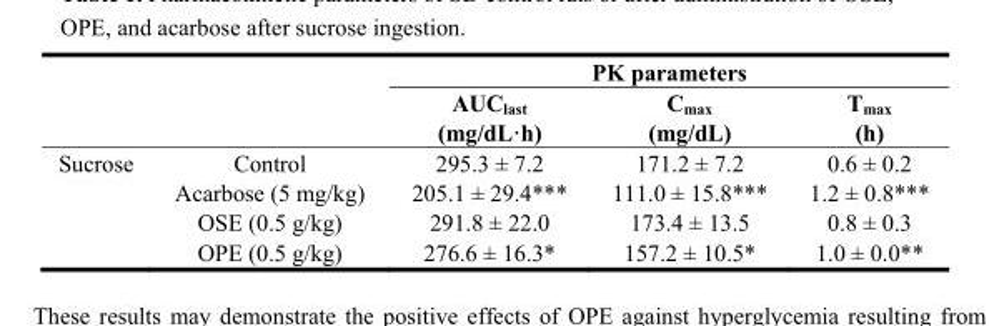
<table><thead><tr><td rowspan="2"></td><td rowspan="2"></td><td colspan="3">PK parameters</td></tr><tr><td>AUC<sub>last</sub> (mg/dL·h)</td><td>C<sub>max</sub> (mg/dL)</td><td>T<sub>max</sub> (h)</td></tr></thead><tbody><tr><td rowspan="4">Sucrose</td><td>Control</td><td>295.3 ± 7.2</td><td>171.2 ± 7.2</td><td>0.6 ± 0.2</td></tr><tr><td>Acarbose (5 mg/kg)</td><td>205.1 ± 29.4***</td><td>111.0 ± 15.8***</td><td>1.2 ± 0.8***</td></tr><tr><td>OSE (0.5 g/kg)</td><td>291.8 ± 22.0</td><td>173.4 ± 13.5</td><td>0.8 ± 0.3</td></tr><tr><td>OPE (0.5 g/kg)</td><td>276.6 ± 16.3*</td><td>157.2 ± 10.5*</td><td>1.0 ± 0.0**</td></tr></tbody></table>